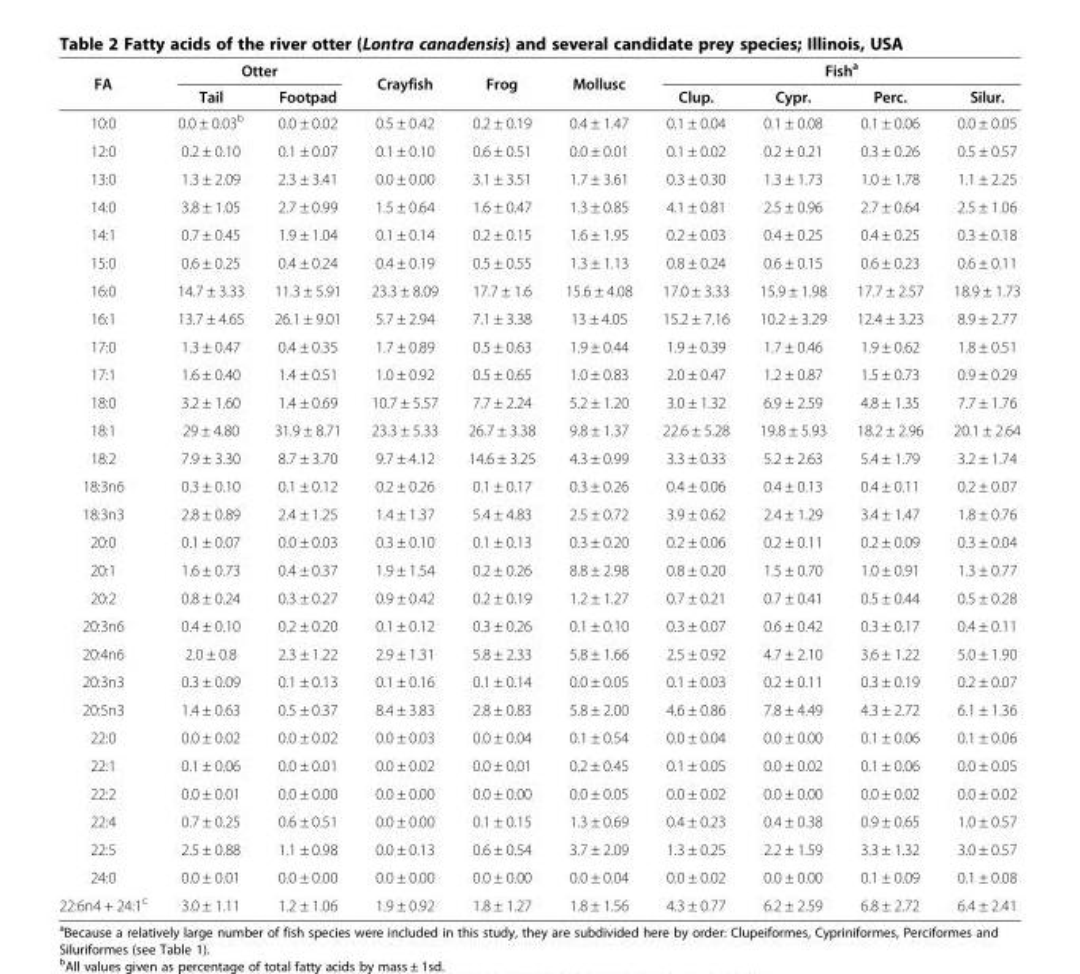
<table><thead><tr><td rowspan="2">FA</td><td colspan="2">Otter</td><td rowspan="2">Crayfish</td><td rowspan="2">Frog</td><td rowspan="2">Mollusc</td><td colspan="4">Fish<sup>a</sup></td></tr><tr><td>Tail</td><td>Footpad</td><td>Clup.</td><td>Cypr.</td><td>Perc.</td><td>Silur.</td></tr></thead><tbody><tr><td>10:0</td><td>0.0 ± 0.03<sup>b</sup></td><td>0.0 ± 0.02</td><td>0.5 ± 0.42</td><td>0.2 ± 0.19</td><td>0.4 ± 1.47</td><td>0.1 ± 0.04</td><td>0.1 ± 0.08</td><td>0.1 ± 0.06</td><td>0.0 ± 0.05</td></tr><tr><td>12:0</td><td>0.2 ± 0.10</td><td>0.1 ± 0.07</td><td>0.1 ± 0.10</td><td>0.6 ± 0.51</td><td>0.0 ± 0.01</td><td>0.1 ± 0.02</td><td>0.2 ± 0.21</td><td>0.3 ± 0.26</td><td>0.5 ± 0.57</td></tr><tr><td>13:0</td><td>1.3 ± 2.09</td><td>2.3 ± 3.41</td><td>0.0 ± 0.00</td><td>3.1 ± 3.51</td><td>1.7 ± 3.61</td><td>0.3 ± 0.30</td><td>1.3 ± 1.73</td><td>1.0 ± 1.78</td><td>1.1 ± 2.25</td></tr><tr><td>14:0</td><td>3.8 ± 1.05</td><td>2.7 ± 0.99</td><td>1.5 ± 0.64</td><td>1.6 ± 0.47</td><td>1.3 ± 0.85</td><td>4.1 ± 0.81</td><td>2.5 ± 0.96</td><td>2.7 ± 0.64</td><td>2.5 ± 1.06</td></tr><tr><td>14:1</td><td>0.7 ± 0.45</td><td>1.9 ± 1.04</td><td>0.1 ± 0.14</td><td>0.2 ± 0.15</td><td>1.6 ± 1.95</td><td>0.2 ± 0.03</td><td>0.4 ± 0.25</td><td>0.4 ± 0.25</td><td>0.3 ± 0.18</td></tr><tr><td>15:0</td><td>0.6 ± 0.25</td><td>0.4 ± 0.24</td><td>0.4 ± 0.19</td><td>0.5 ± 0.55</td><td>1.3 ± 1.13</td><td>0.8 ± 0.24</td><td>0.6 ± 0.15</td><td>0.6 ± 0.23</td><td>0.6 ± 0.11</td></tr><tr><td>16:0</td><td>14.7 ± 3.33</td><td>11.3 ± 5.91</td><td>23.3 ± 8.09</td><td>17.7 ± 1.6</td><td>15.6 ± 4.08</td><td>17.0 ± 3.33</td><td>15.9 ± 1.98</td><td>17.7 ± 2.57</td><td>18.9 ± 1.73</td></tr><tr><td>16:1</td><td>13.7 ± 4.65</td><td>26.1 ± 9.01</td><td>5.7 ± 2.94</td><td>7.1 ± 3.38</td><td>13 ± 4.05</td><td>15.2 ± 7.16</td><td>10.2 ± 3.29</td><td>12.4 ± 3.23</td><td>8.9 ± 2.77</td></tr><tr><td>17:0</td><td>1.3 ± 0.47</td><td>0.4 ± 0.35</td><td>1.7 ± 0.89</td><td>0.5 ± 0.63</td><td>1.9 ± 0.44</td><td>1.9 ± 0.39</td><td>1.7 ± 0.46</td><td>1.9 ± 0.62</td><td>1.8 ± 0.51</td></tr><tr><td>17:1</td><td>1.6 ± 0.40</td><td>1.4 ± 0.51</td><td>1.0 ± 0.92</td><td>0.5 ± 0.65</td><td>1.0 ± 0.83</td><td>2.0 ± 0.47</td><td>1.2 ± 0.87</td><td>1.5 ± 0.73</td><td>0.9 ± 0.29</td></tr><tr><td>18:0</td><td>3.2 ± 1.60</td><td>1.4 ± 0.69</td><td>10.7 ± 5.57</td><td>7.7 ± 2.24</td><td>5.2 ± 1.20</td><td>3.0 ± 1.32</td><td>6.9 ± 2.59</td><td>4.8 ± 1.35</td><td>7.7 ± 1.76</td></tr><tr><td>18:1</td><td>29 ± 4.80</td><td>31.9 ± 8.71</td><td>23.3 ± 5.33</td><td>26.7 ± 3.38</td><td>9.8 ± 1.37</td><td>22.6 ± 5.28</td><td>19.8 ± 5.93</td><td>18.2 ± 2.96</td><td>20.1 ± 2.64</td></tr><tr><td>18:2</td><td>7.9 ± 3.30</td><td>8.7 ± 3.70</td><td>9.7 ± 4.12</td><td>14.6 ± 3.25</td><td>4.3 ± 0.99</td><td>3.3 ± 0.33</td><td>5.2 ± 2.63</td><td>5.4 ± 1.79</td><td>3.2 ± 1.74</td></tr><tr><td>18:3n6</td><td>0.3 ± 0.10</td><td>0.1 ± 0.12</td><td>0.2 ± 0.26</td><td>0.1 ± 0.17</td><td>0.3 ± 0.26</td><td>0.4 ± 0.06</td><td>0.4 ± 0.13</td><td>0.4 ± 0.11</td><td>0.2 ± 0.07</td></tr><tr><td>18:3n3</td><td>2.8 ± 0.89</td><td>2.4 ± 1.25</td><td>1.4 ± 1.37</td><td>5.4 ± 4.83</td><td>2.5 ± 0.72</td><td>3.9 ± 0.62</td><td>2.4 ± 1.29</td><td>3.4 ± 1.47</td><td>1.8 ± 0.76</td></tr><tr><td>20:0</td><td>0.1 ± 0.07</td><td>0.0 ± 0.03</td><td>0.3 ± 0.10</td><td>0.1 ± 0.13</td><td>0.3 ± 0.20</td><td>0.2 ± 0.06</td><td>0.2 ± 0.11</td><td>0.2 ± 0.09</td><td>0.3 ± 0.04</td></tr><tr><td>20:1</td><td>1.6 ± 0.73</td><td>0.4 ± 0.37</td><td>1.9 ± 1.54</td><td>0.2 ± 0.26</td><td>8.8 ± 2.98</td><td>0.8 ± 0.20</td><td>1.5 ± 0.70</td><td>1.0 ± 0.91</td><td>1.3 ± 0.77</td></tr><tr><td>20:2</td><td>0.8 ± 0.24</td><td>0.3 ± 0.27</td><td>0.9 ± 0.42</td><td>0.2 ± 0.19</td><td>1.2 ± 1.27</td><td>0.7 ± 0.21</td><td>0.7 ± 0.41</td><td>0.5 ± 0.44</td><td>0.5 ± 0.28</td></tr><tr><td>20:3n6</td><td>0.4 ± 0.10</td><td>0.2 ± 0.20</td><td>0.1 ± 0.12</td><td>0.3 ± 0.26</td><td>0.1 ± 0.10</td><td>0.3 ± 0.07</td><td>0.6 ± 0.42</td><td>0.3 ± 0.17</td><td>0.4 ± 0.11</td></tr><tr><td>20:4n6</td><td>2.0 ± 0.8</td><td>2.3 ± 1.22</td><td>2.9 ± 1.31</td><td>5.8 ± 2.33</td><td>5.8 ± 1.66</td><td>2.5 ± 0.92</td><td>4.7 ± 2.10</td><td>3.6 ± 1.22</td><td>5.0 ± 1.90</td></tr><tr><td>20:3n3</td><td>0.3 ± 0.09</td><td>0.1 ± 0.13</td><td>0.1 ± 0.16</td><td>0.1 ± 0.14</td><td>0.0 ± 0.05</td><td>0.1 ± 0.03</td><td>0.2 ± 0.11</td><td>0.3 ± 0.19</td><td>0.2 ± 0.07</td></tr><tr><td>20:5n3</td><td>1.4 ± 0.63</td><td>0.5 ± 0.37</td><td>8.4 ± 3.83</td><td>2.8 ± 0.83</td><td>5.8 ± 2.00</td><td>4.6 ± 0.86</td><td>7.8 ± 4.49</td><td>4.3 ± 2.72</td><td>6.1 ± 1.36</td></tr><tr><td>22:0</td><td>0.0 ± 0.02</td><td>0.0 ± 0.02</td><td>0.0 ± 0.03</td><td>0.0 ± 0.04</td><td>0.1 ± 0.54</td><td>0.0 ± 0.04</td><td>0.0 ± 0.00</td><td>0.1 ± 0.06</td><td>0.1 ± 0.06</td></tr><tr><td>22:1</td><td>0.1 ± 0.06</td><td>0.0 ± 0.01</td><td>0.0 ± 0.02</td><td>0.0 ± 0.01</td><td>0.2 ± 0.45</td><td>0.1 ± 0.05</td><td>0.0 ± 0.02</td><td>0.1 ± 0.06</td><td>0.0 ± 0.05</td></tr><tr><td>22:2</td><td>0.0 ± 0.01</td><td>0.0 ± 0.00</td><td>0.0 ± 0.00</td><td>0.0 ± 0.00</td><td>0.0 ± 0.05</td><td>0.0 ± 0.02</td><td>0.0 ± 0.00</td><td>0.0 ± 0.02</td><td>0.0 ± 0.02</td></tr><tr><td>22:4</td><td>0.7 ± 0.25</td><td>0.6 ± 0.51</td><td>0.0 ± 0.00</td><td>0.1 ± 0.15</td><td>1.3 ± 0.69</td><td>0.4 ± 0.23</td><td>0.4 ± 0.38</td><td>0.9 ± 0.65</td><td>1.0 ± 0.57</td></tr><tr><td>22:5</td><td>2.5 ± 0.88</td><td>1.1 ± 0.98</td><td>0.0 ± 0.13</td><td>0.6 ± 0.54</td><td>3.7 ± 2.09</td><td>1.3 ± 0.25</td><td>2.2 ± 1.59</td><td>3.3 ± 1.32</td><td>3.0 ± 0.57</td></tr><tr><td>24:0</td><td>0.0 ± 0.01</td><td>0.0 ± 0.00</td><td>0.0 ± 0.00</td><td>0.0 ± 0.00</td><td>0.0 ± 0.04</td><td>0.0 ± 0.02</td><td>0.0 ± 0.00</td><td>0.1 ± 0.09</td><td>0.1 ± 0.08</td></tr><tr><td>22:6n4 + 24:1<sup>c</sup></td><td>3.0 ± 1.11</td><td>1.2 ± 1.06</td><td>1.9 ± 0.92</td><td>1.8 ± 1.27</td><td>1.8 ± 1.56</td><td>4.3 ± 0.77</td><td>6.2 ± 2.59</td><td>6.8 ± 2.72</td><td>6.4 ± 2.41</td></tr></tbody></table>